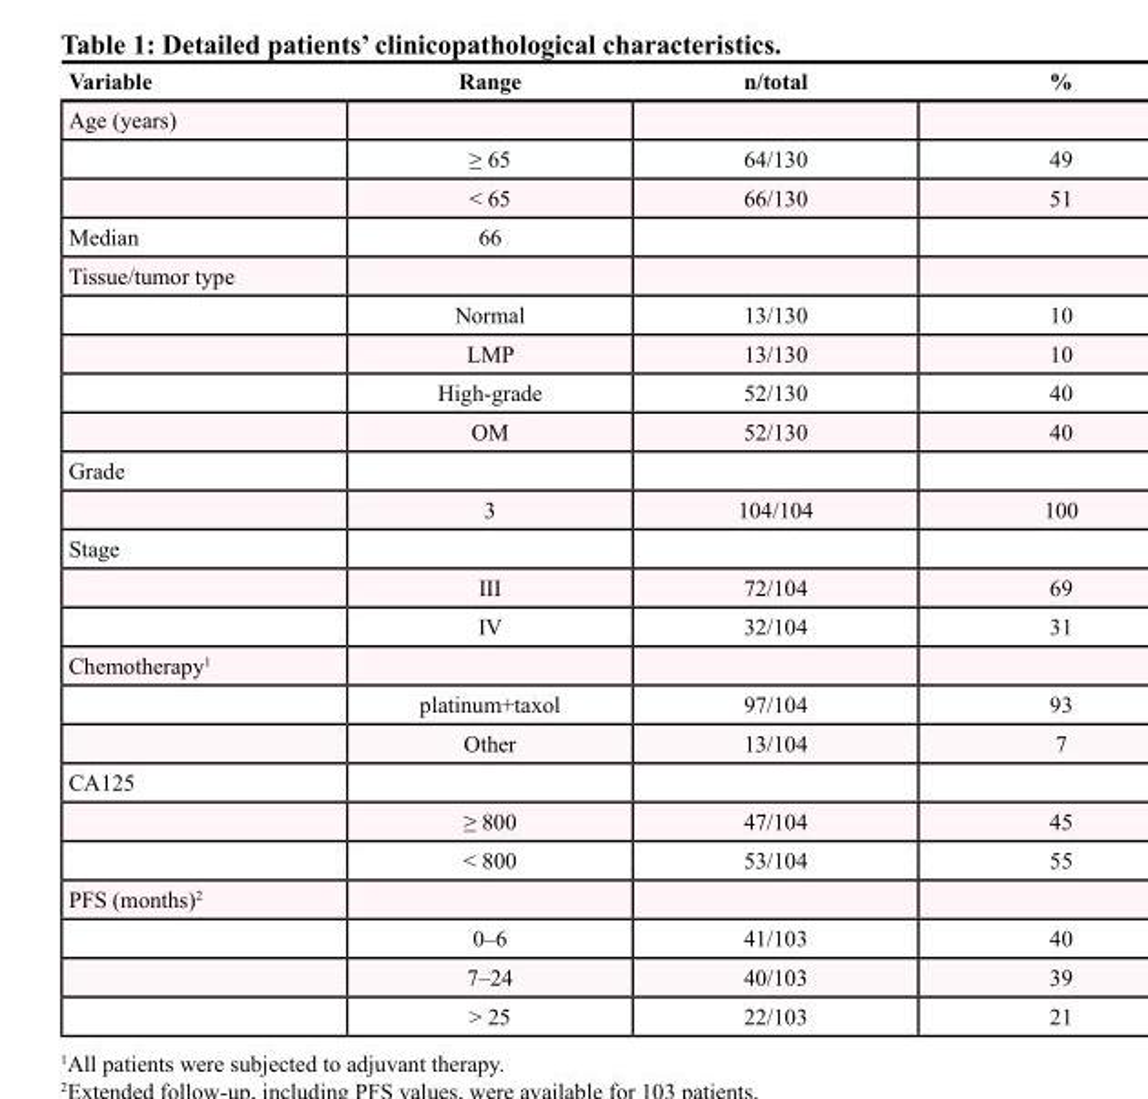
<table><thead><tr><td>Variable</td><td>Range</td><td>n/total</td><td>%</td></tr></thead><tbody><tr><td colspan="4">Age (years)</td></tr><tr><td></td><td>≥ 65</td><td>64/130</td><td>49</td></tr><tr><td></td><td>&lt; 65</td><td>66/130</td><td>51</td></tr><tr><td>Median</td><td>66</td><td></td><td></td></tr><tr><td colspan="4">Tissue/tumor type</td></tr><tr><td></td><td>Normal</td><td>13/130</td><td>10</td></tr><tr><td></td><td>LMP</td><td>13/130</td><td>10</td></tr><tr><td></td><td>High-grade</td><td>52/130</td><td>40</td></tr><tr><td></td><td>OM</td><td>52/130</td><td>40</td></tr><tr><td colspan="4">Grade</td></tr><tr><td></td><td>3</td><td>104/104</td><td>100</td></tr><tr><td colspan="4">Stage</td></tr><tr><td></td><td>III</td><td>72/104</td><td>69</td></tr><tr><td></td><td>IV</td><td>32/104</td><td>31</td></tr><tr><td colspan="4">Chemotherapy<sup>1</sup></td></tr><tr><td></td><td>platinum+taxol</td><td>97/104</td><td>93</td></tr><tr><td></td><td>Other</td><td>13/104</td><td>7</td></tr><tr><td colspan="4">CA125</td></tr><tr><td></td><td>≥ 800</td><td>47/104</td><td>45</td></tr><tr><td></td><td>&lt; 800</td><td>53/104</td><td>55</td></tr><tr><td colspan="4">PFS (months)<sup>2</sup></td></tr><tr><td></td><td>0–6</td><td>41/103</td><td>40</td></tr><tr><td></td><td>7–24</td><td>40/103</td><td>39</td></tr><tr><td></td><td>&gt; 25</td><td>22/103</td><td>21</td></tr></tbody></table>